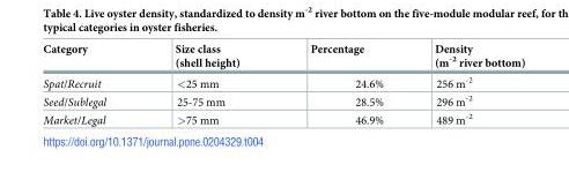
<table><thead><tr><td>Category</td><td>Size class (shell height)</td><td>Percentage</td><td>Density (m<sup>-2</sup> river bottom)</td></tr></thead><tbody><tr><td>Spat/Recruit</td><td>&lt;25 mm</td><td>24.6%</td><td>256 m<sup>-2</sup></td></tr><tr><td>Seed/Sublegal</td><td>25-75 mm</td><td>28.5%</td><td>296 m<sup>-2</sup></td></tr><tr><td>Market/Legal</td><td>&gt;75 mm</td><td>46.9%</td><td>489 m<sup>-2</sup></td></tr></tbody></table>